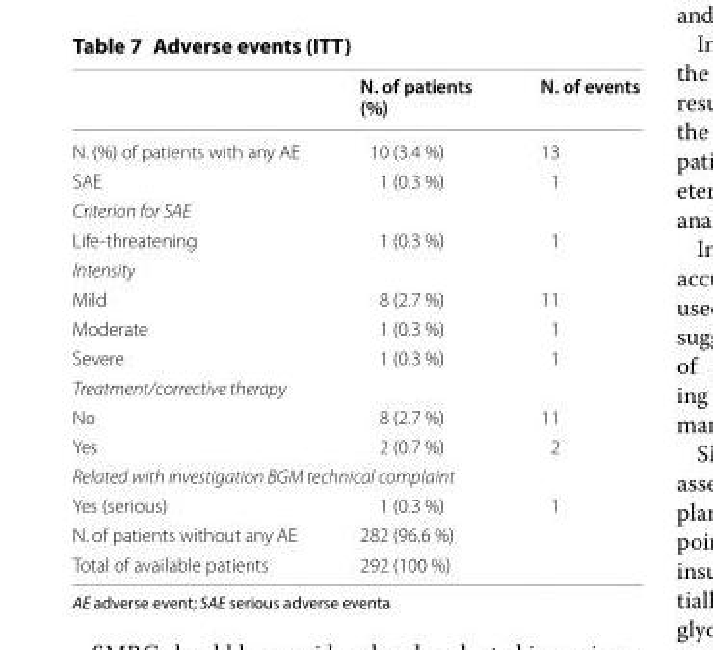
<table><thead><tr><td></td><td>N. of patients (%)</td><td>N. of events</td></tr></thead><tbody><tr><td>N. (%) of patients with any AE</td><td>10 (3.4 %)</td><td>13</td></tr><tr><td>SAE</td><td>1 (0.3 %)</td><td>1</td></tr><tr><td colspan="3">Criterion for SAE</td></tr><tr><td>Life-threatening</td><td>1 (0.3 %)</td><td>1</td></tr><tr><td colspan="3">Intensity</td></tr><tr><td>Mild</td><td>8 (2.7 %)</td><td>11</td></tr><tr><td>Moderate</td><td>1 (0.3 %)</td><td>1</td></tr><tr><td>Severe</td><td>1 (0.3 %)</td><td>1</td></tr><tr><td colspan="3">Treatment/corrective therapy</td></tr><tr><td>No</td><td>8 (2.7 %)</td><td>11</td></tr><tr><td>Yes</td><td>2 (0.7 %)</td><td>2</td></tr><tr><td colspan="3">Related with investigation BGM technical complaint</td></tr><tr><td>Yes (serious)</td><td>1 (0.3 %)</td><td>1</td></tr><tr><td>N. of patients without any AE</td><td>282 (96.6 %)</td><td></td></tr><tr><td>Total of available patients</td><td>292 (100 %)</td><td></td></tr></tbody></table>